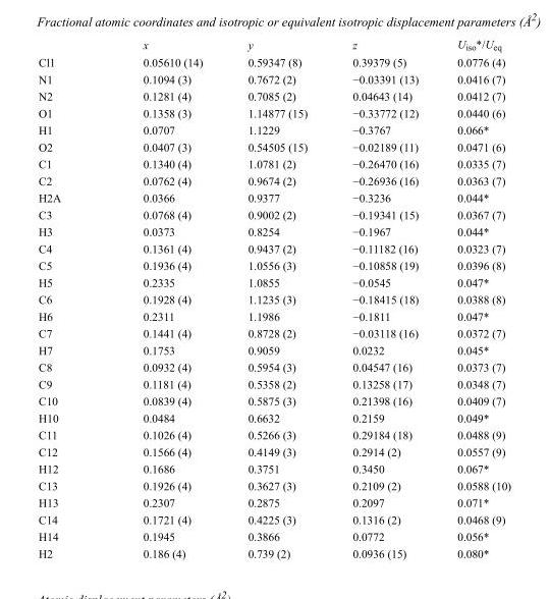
<table><thead><tr><td></td><td>x</td><td>y</td><td>z</td><td>U<sub>iso</sub>*/U<sub>eq</sub></td></tr></thead><tbody><tr><td>Cl1</td><td>0.05610 (14)</td><td>0.59347 (8)</td><td>0.39379 (5)</td><td>0.0776 (4)</td></tr><tr><td>N1</td><td>0.1094 (3)</td><td>0.7672 (2)</td><td>−0.03391 (13)</td><td>0.0416 (7)</td></tr><tr><td>N2</td><td>0.1281 (4)</td><td>0.7085 (2)</td><td>0.04643 (14)</td><td>0.0412 (7)</td></tr><tr><td>O1</td><td>0.1358 (3)</td><td>1.14877 (15)</td><td>−0.33772 (12)</td><td>0.0440 (6)</td></tr><tr><td>H1</td><td>0.0707</td><td>1.1229</td><td>−0.3767</td><td>0.066*</td></tr><tr><td>O2</td><td>0.0407 (3)</td><td>0.54505 (15)</td><td>−0.02189 (11)</td><td>0.0471 (6)</td></tr><tr><td>C1</td><td>0.1340 (4)</td><td>1.0781 (2)</td><td>−0.26470 (16)</td><td>0.0335 (7)</td></tr><tr><td>C2</td><td>0.0762 (4)</td><td>0.9674 (2)</td><td>−0.26936 (16)</td><td>0.0363 (7)</td></tr><tr><td>H2A</td><td>0.0366</td><td>0.9377</td><td>−0.3236</td><td>0.044*</td></tr><tr><td>C3</td><td>0.0768 (4)</td><td>0.9002 (2)</td><td>−0.19341 (15)</td><td>0.0367 (7)</td></tr><tr><td>H3</td><td>0.0373</td><td>0.8254</td><td>−0.1967</td><td>0.044*</td></tr><tr><td>C4</td><td>0.1361 (4)</td><td>0.9437 (2)</td><td>−0.11182 (16)</td><td>0.0323 (7)</td></tr><tr><td>C5</td><td>0.1936 (4)</td><td>1.0556 (3)</td><td>−0.10858 (19)</td><td>0.0396 (8)</td></tr><tr><td>H5</td><td>0.2335</td><td>1.0855</td><td>−0.0545</td><td>0.047*</td></tr><tr><td>C6</td><td>0.1928 (4)</td><td>1.1235 (3)</td><td>−0.18415 (18)</td><td>0.0388 (8)</td></tr><tr><td>H6</td><td>0.2311</td><td>1.1986</td><td>−0.1811</td><td>0.047*</td></tr><tr><td>C7</td><td>0.1441 (4)</td><td>0.8728 (2)</td><td>−0.03118 (16)</td><td>0.0372 (7)</td></tr><tr><td>H7</td><td>0.1753</td><td>0.9059</td><td>0.0232</td><td>0.045*</td></tr><tr><td>C8</td><td>0.0932 (4)</td><td>0.5954 (3)</td><td>0.04547 (16)</td><td>0.0373 (7)</td></tr><tr><td>C9</td><td>0.1181 (4)</td><td>0.5358 (2)</td><td>0.13258 (17)</td><td>0.0348 (7)</td></tr><tr><td>C10</td><td>0.0839 (4)</td><td>0.5875 (3)</td><td>0.21398 (16)</td><td>0.0409 (7)</td></tr><tr><td>H10</td><td>0.0484</td><td>0.6632</td><td>0.2159</td><td>0.049*</td></tr><tr><td>C11</td><td>0.1026 (4)</td><td>0.5266 (3)</td><td>0.29184 (18)</td><td>0.0488 (9)</td></tr><tr><td>C12</td><td>0.1566 (4)</td><td>0.4149 (3)</td><td>0.2914 (2)</td><td>0.0557 (9)</td></tr><tr><td>H12</td><td>0.1686</td><td>0.3751</td><td>0.3450</td><td>0.067*</td></tr><tr><td>C13</td><td>0.1926 (4)</td><td>0.3627 (3)</td><td>0.2109 (2)</td><td>0.0588 (10)</td></tr><tr><td>H13</td><td>0.2307</td><td>0.2875</td><td>0.2097</td><td>0.071*</td></tr><tr><td>C14</td><td>0.1721 (4)</td><td>0.4225 (3)</td><td>0.1316 (2)</td><td>0.0468 (9)</td></tr><tr><td>H14</td><td>0.1945</td><td>0.3866</td><td>0.0772</td><td>0.056*</td></tr><tr><td>H2</td><td>0.186 (4)</td><td>0.739 (2)</td><td>0.0936 (15)</td><td>0.080*</td></tr></tbody></table>